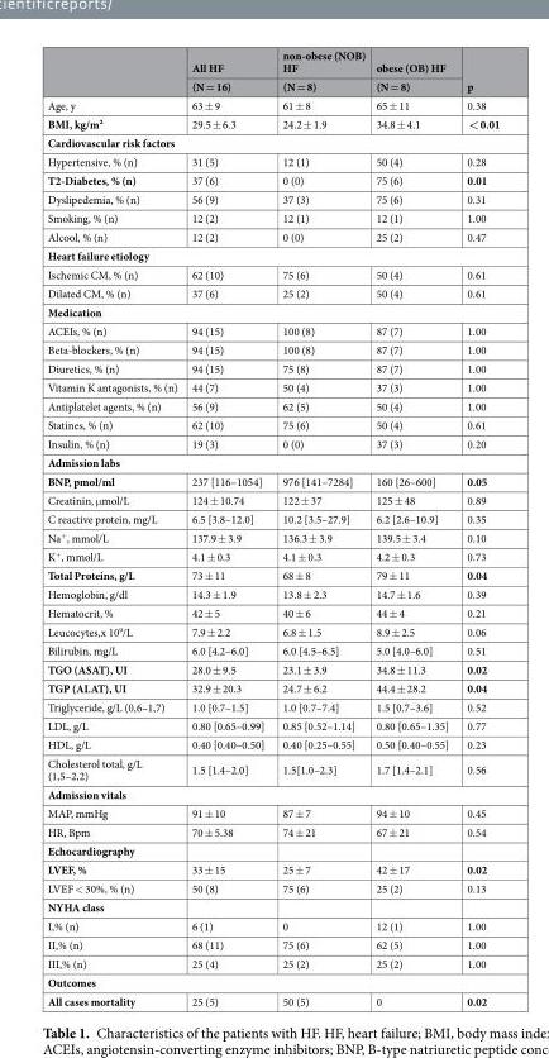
<table><thead><tr><td rowspan="2"></td><td rowspan="2">All HF (N = 16)</td><td rowspan="2">non-obese (NOB) HF (N = 8)</td><td rowspan="2">obese (OB) HF (N = 8)</td><td rowspan="2">p</td></tr><tr></tr></thead><tbody><tr><td>Age, y</td><td>63 ± 9</td><td>61 ± 8</td><td>65 ± 11</td><td>0.38</td></tr><tr><td>BMI, kg/m²</td><td>29.5 ± 6.3</td><td>24.2 ± 1.9</td><td>34.8 ± 4.1</td><td>&lt; 0.01</td></tr><tr><td colspan="5">Cardiovascular risk factors</td></tr><tr><td>Hypertensive, % (n)</td><td>31 (5)</td><td>12 (1)</td><td>50 (4)</td><td>0.28</td></tr><tr><td>T2-Diabetes, % (n)</td><td>37 (6)</td><td>0 (0)</td><td>75 (6)</td><td>0.01</td></tr><tr><td>Dyslipedemia, % (n)</td><td>56 (9)</td><td>37 (3)</td><td>75 (6)</td><td>0.31</td></tr><tr><td>Smoking, % (n)</td><td>12 (2)</td><td>12 (1)</td><td>12 (1)</td><td>1.00</td></tr><tr><td>Alcool, % (n)</td><td>12 (2)</td><td>0 (0)</td><td>25 (2)</td><td>0.47</td></tr><tr><td colspan="5">Heart failure etiology</td></tr><tr><td>Ischemic CM, % (n)</td><td>62 (10)</td><td>75 (6)</td><td>50 (4)</td><td>0.61</td></tr><tr><td>Dilated CM, % (n)</td><td>37 (6)</td><td>25 (2)</td><td>50 (4)</td><td>0.61</td></tr><tr><td colspan="5">Medication</td></tr><tr><td>ACEIs, % (n)</td><td>94 (15)</td><td>100 (8)</td><td>87 (7)</td><td>1.00</td></tr><tr><td>Beta-blockers, % (n)</td><td>94 (15)</td><td>100 (8)</td><td>87 (7)</td><td>1.00</td></tr><tr><td>Diuretics, % (n)</td><td>94 (15)</td><td>75 (8)</td><td>87 (7)</td><td>1.00</td></tr><tr><td>Vitamin K antagonists, % (n)</td><td>44 (7)</td><td>50 (4)</td><td>37 (3)</td><td>1.00</td></tr><tr><td>Antiplatelet agents, % (n)</td><td>56 (9)</td><td>62 (5)</td><td>50 (4)</td><td>1.00</td></tr><tr><td>Statines, % (n)</td><td>62 (10)</td><td>75 (6)</td><td>50 (4)</td><td>0.61</td></tr><tr><td>Insulin, % (n)</td><td>19 (3)</td><td>0 (0)</td><td>37 (3)</td><td>0.20</td></tr><tr><td colspan="5">Admission labs</td></tr><tr><td>BNP, pmol/ml</td><td>237 [116–1054]</td><td>976 [141–7284]</td><td>160 [26–600]</td><td>0.05</td></tr><tr><td>Creatinin, μmol/L</td><td>124 ± 10.74</td><td>122 ± 37</td><td>125 ± 48</td><td>0.89</td></tr><tr><td>C reactive protein, mg/L</td><td>6.5 [3.8–12.0]</td><td>10.2 [3.5–27.9]</td><td>6.2 [2.6–10.9]</td><td>0.35</td></tr><tr><td>Na<sup>+</sup>, mmol/L</td><td>137.9 ± 3.9</td><td>136.3 ± 3.9</td><td>139.5 ± 3.4</td><td>0.10</td></tr><tr><td>K<sup>+</sup>, mmol/L</td><td>4.1 ± 0.3</td><td>4.1 ± 0.3</td><td>4.2 ± 0.3</td><td>0.73</td></tr><tr><td>Total Proteins, g/L</td><td>73 ± 11</td><td>68 ± 8</td><td>79 ± 11</td><td>0.04</td></tr><tr><td>Hemoglobin, g/dl</td><td>14.3 ± 1.9</td><td>13.8 ± 2.3</td><td>14.7 ± 1.6</td><td>0.39</td></tr><tr><td>Hematocrit, %</td><td>42 ± 5</td><td>40 ± 6</td><td>44 ± 4</td><td>0.21</td></tr><tr><td>Leucocytes,x 10<sup>9</sup>/L</td><td>7.9 ± 2.2</td><td>6.8 ± 1.5</td><td>8.9 ± 2.5</td><td>0.06</td></tr><tr><td>Bilirubin, mg/L</td><td>6.0 [4.2–6.0]</td><td>6.0 [4.5–6.5]</td><td>5.0 [4.0–6.0]</td><td>0.51</td></tr><tr><td>TGO (ASAT), UI</td><td>28.0 ± 9.5</td><td>23.1 ± 3.9</td><td>34.8 ± 11.3</td><td>0.02</td></tr><tr><td>TGP (ALAT), UI</td><td>32.9 ± 20.3</td><td>24.7 ± 6.2</td><td>44.4 ± 28.2</td><td>0.04</td></tr><tr><td>Triglyceride, g/L (0,6–1,7)</td><td>1.0 [0.7–1.5]</td><td>1.0 [0.7–7.4]</td><td>1.5 [0.7–3.6]</td><td>0.52</td></tr><tr><td>LDL, g/L</td><td>0.80 [0.65–0.99]</td><td>0.85 [0.52–1.14]</td><td>0.80 [0.65–1.35]</td><td>0.77</td></tr><tr><td>HDL, g/L</td><td>0.40 [0.40–0.50]</td><td>0.40 [0.25–0.55]</td><td>0.50 [0.40–0.55]</td><td>0.23</td></tr><tr><td>Cholesterol total, g/L (1,5–2,2)</td><td>1.5 [1.4–2.0]</td><td>1.5[1.0–2.3]</td><td>1.7 [1.4–2.1]</td><td>0.56</td></tr><tr><td colspan="5">Admission vitals</td></tr><tr><td>MAP, mmHg</td><td>91 ± 10</td><td>87 ± 7</td><td>94 ± 10</td><td>0.45</td></tr><tr><td>HR, Bpm</td><td>70 ± 5.38</td><td>74 ± 21</td><td>67 ± 21</td><td>0.54</td></tr><tr><td colspan="5">Echocardiography</td></tr><tr><td>LVEF, %</td><td>33 ± 15</td><td>25 ± 7</td><td>42 ± 17</td><td>0.02</td></tr><tr><td>LVEF &lt; 30%, % (n)</td><td>50 (8)</td><td>75 (6)</td><td>25 (2)</td><td>0.13</td></tr><tr><td colspan="5">NYHA class</td></tr><tr><td>I,% (n)</td><td>6 (1)</td><td>0</td><td>12 (1)</td><td>1.00</td></tr><tr><td>II,% (n)</td><td>68 (11)</td><td>75 (6)</td><td>62 (5)</td><td>1.00</td></tr><tr><td>III,% (n)</td><td>25 (4)</td><td>25 (2)</td><td>25 (2)</td><td>1.00</td></tr><tr><td colspan="5">Outcomes</td></tr><tr><td>All cases mortality</td><td>25 (5)</td><td>50 (5)</td><td>0</td><td>0.02</td></tr></tbody></table>